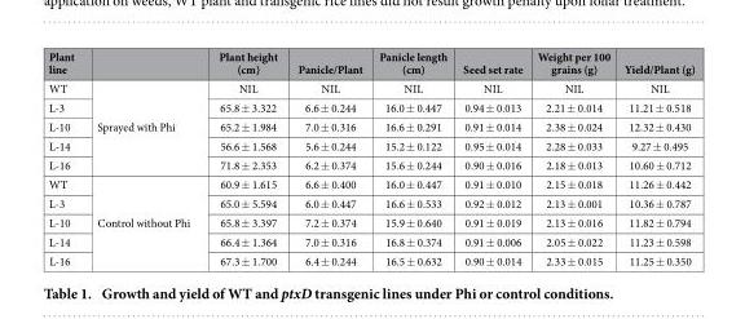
<table><thead><tr><td>Plant line</td><td></td><td>Plant height (cm)</td><td>Panicle/Plant</td><td>Panicle length (cm)</td><td>Seed set rate</td><td>Weight per 100 grains (g)</td><td>Yield/Plant (g)</td></tr></thead><tbody><tr><td>WT</td><td rowspan="5">Sprayed with Phi</td><td>NIL</td><td>NIL</td><td>NIL</td><td>NIL</td><td>NIL</td><td>NIL</td></tr><tr><td>L-3</td><td>65.8 ± 3.322</td><td>6.6 ± 0.244</td><td>16.0 ± 0.447</td><td>0.94 ± 0.013</td><td>2.21 ± 0.014</td><td>11.21 ± 0.518</td></tr><tr><td>L-10</td><td>65.2 ± 1.984</td><td>7.0 ± 0.316</td><td>16.6 ± 0.291</td><td>0.91 ± 0.014</td><td>2.38 ± 0.024</td><td>12.32 ± 0.430</td></tr><tr><td>L-14</td><td>56.6 ± 1.568</td><td>5.6 ± 0.244</td><td>15.2 ± 0.122</td><td>0.95 ± 0.014</td><td>2.28 ± 0.033</td><td>9.27 ± 0.495</td></tr><tr><td>L-16</td><td>71.8 ± 2.353</td><td>6.2 ± 0.374</td><td>15.6 ± 0.244</td><td>0.90 ± 0.016</td><td>2.18 ± 0.013</td><td>10.60 ± 0.712</td></tr><tr><td>WT</td><td rowspan="5">Control without Phi</td><td>60.9 ± 1.615</td><td>6.6 ± 0.400</td><td>16.0 ± 0.447</td><td>0.91 ± 0.010</td><td>2.15 ± 0.018</td><td>11.26 ± 0.442</td></tr><tr><td>L-3</td><td>65.0 ± 5.594</td><td>6.0 ± 0.447</td><td>16.6 ± 0.533</td><td>0.92 ± 0.012</td><td>2.13 ± 0.001</td><td>10.36 ± 0.787</td></tr><tr><td>L-10</td><td>65.8 ± 3.397</td><td>7.2 ± 0.374</td><td>15.9 ± 0.640</td><td>0.91 ± 0.019</td><td>2.13 ± 0.016</td><td>11.82 ± 0.794</td></tr><tr><td>L-14</td><td>66.4 ± 1.364</td><td>7.0 ± 0.316</td><td>16.8 ± 0.374</td><td>0.91 ± 0.006</td><td>2.05 ± 0.022</td><td>11.23 ± 0.598</td></tr><tr><td>L-16</td><td>67.3 ± 1.700</td><td>6.4 ± 0.244</td><td>16.5 ± 0.632</td><td>0.90 ± 0.014</td><td>2.33 ± 0.015</td><td>11.25 ± 0.350</td></tr></tbody></table>